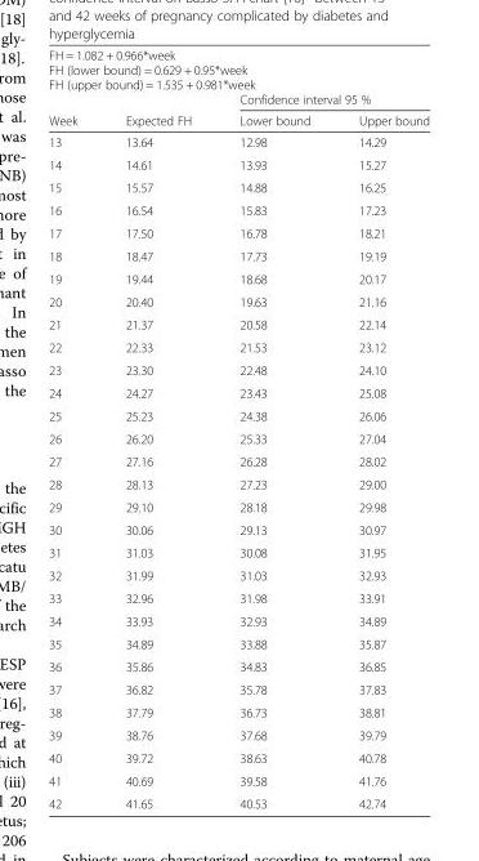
<table><thead><tr><td rowspan="2" colspan="4">FH = 1.082 + 0.966*week FH (lower bound) = 0.629 + 0.95*week FH (upper bound) = 1.535 + 0.981*week</td></tr><tr></tr><tr><td rowspan="2">Week</td><td rowspan="2">Expected FH</td><td colspan="2">Confidence interval 95 %</td></tr><tr><td>Lower bound</td><td>Upper bound</td></tr></thead><tbody><tr><td>13</td><td>13.64</td><td>12.98</td><td>14.29</td></tr><tr><td>14</td><td>14.61</td><td>13.93</td><td>15.27</td></tr><tr><td>15</td><td>15.57</td><td>14.88</td><td>16.25</td></tr><tr><td>16</td><td>16.54</td><td>15.83</td><td>17.23</td></tr><tr><td>17</td><td>17.50</td><td>16.78</td><td>18.21</td></tr><tr><td>18</td><td>18.47</td><td>17.73</td><td>19.19</td></tr><tr><td>19</td><td>19.44</td><td>18.68</td><td>20.17</td></tr><tr><td>20</td><td>20.40</td><td>19.63</td><td>21.16</td></tr><tr><td>21</td><td>21.37</td><td>20.58</td><td>22.14</td></tr><tr><td>22</td><td>22.33</td><td>21.53</td><td>23.12</td></tr><tr><td>23</td><td>23.30</td><td>22.48</td><td>24.10</td></tr><tr><td>24</td><td>24.27</td><td>23.43</td><td>25.08</td></tr><tr><td>25</td><td>25.23</td><td>24.38</td><td>26.06</td></tr><tr><td>26</td><td>26.20</td><td>25.33</td><td>27.04</td></tr><tr><td>27</td><td>27.16</td><td>26.28</td><td>28.02</td></tr><tr><td>28</td><td>28.13</td><td>27.23</td><td>29.00</td></tr><tr><td>29</td><td>29.10</td><td>28.18</td><td>29.98</td></tr><tr><td>30</td><td>30.06</td><td>29.13</td><td>30.97</td></tr><tr><td>31</td><td>31.03</td><td>30.08</td><td>31.95</td></tr><tr><td>32</td><td>31.99</td><td>31.03</td><td>32.93</td></tr><tr><td>33</td><td>32.96</td><td>31.98</td><td>33.91</td></tr><tr><td>34</td><td>33.93</td><td>32.93</td><td>34.89</td></tr><tr><td>35</td><td>34.89</td><td>33.88</td><td>35.87</td></tr><tr><td>36</td><td>35.86</td><td>34.83</td><td>36.85</td></tr><tr><td>37</td><td>36.82</td><td>35.78</td><td>37.83</td></tr><tr><td>38</td><td>37.79</td><td>36.73</td><td>38.81</td></tr><tr><td>39</td><td>38.76</td><td>37.68</td><td>39.79</td></tr><tr><td>40</td><td>39.72</td><td>38.63</td><td>40.78</td></tr><tr><td>41</td><td>40.69</td><td>39.58</td><td>41.76</td></tr><tr><td>42</td><td>41.65</td><td>40.53</td><td>42.74</td></tr></tbody></table>